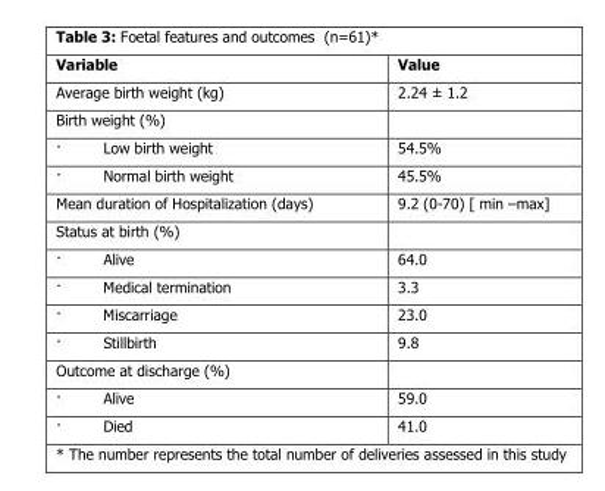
<table><thead><tr><td>Variable</td><td>Value</td></tr></thead><tbody><tr><td>Average birth weight (kg)</td><td>2.24 ± 1.2</td></tr><tr><td colspan="2">Birth weight (%)</td></tr><tr><td>· Low birth weight</td><td>54.5%</td></tr><tr><td>· Normal birth weight</td><td>45.5%</td></tr><tr><td>Mean duration of Hospitalization (days)</td><td>9.2 (0-70) [ min –max]</td></tr><tr><td colspan="2">Status at birth (%)</td></tr><tr><td>· Alive</td><td>64.0</td></tr><tr><td>· Medical termination</td><td>3.3</td></tr><tr><td>· Miscarriage</td><td>23.0</td></tr><tr><td>· Stillbirth</td><td>9.8</td></tr><tr><td colspan="2">Outcome at discharge (%)</td></tr><tr><td>· Alive</td><td>59.0</td></tr><tr><td>· Died</td><td>41.0</td></tr></tbody></table>